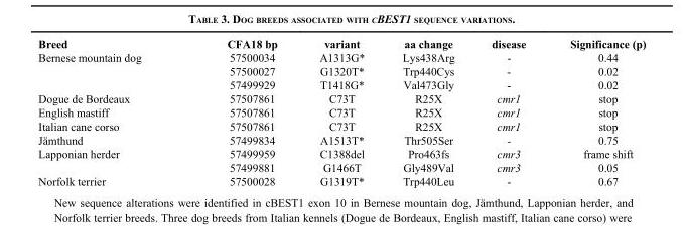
<table><thead><tr><td>Breed</td><td>CFA18 bp</td><td>variant</td><td>aa change</td><td>disease</td><td>Significance (p)</td></tr></thead><tbody><tr><td rowspan="3">Bernese mountain dog</td><td>57500034</td><td>A1313G*</td><td>Lys438Arg</td><td>-</td><td>0.44</td></tr><tr><td>57500027</td><td>G1320T*</td><td>Trp440Cys</td><td>-</td><td>0.02</td></tr><tr><td>57499929</td><td>T1418G*</td><td>Val473Gly</td><td>-</td><td>0.02</td></tr><tr><td>Dogue de Bordeaux</td><td>57507861</td><td>C73T</td><td>R25X</td><td>cmr1</td><td>stop</td></tr><tr><td>English mastiff</td><td>57507861</td><td>C73T</td><td>R25X</td><td>cmr1</td><td>stop</td></tr><tr><td>Italian cane corso</td><td>57507861</td><td>C73T</td><td>R25X</td><td>cmr1</td><td>stop</td></tr><tr><td>Jämthund</td><td>57499834</td><td>A1513T*</td><td>Thr505Ser</td><td>-</td><td>0.75</td></tr><tr><td rowspan="2">Lapponian herder</td><td>57499959</td><td>C1388del</td><td>Pro463fs</td><td>cmr3</td><td>frame shift</td></tr><tr><td>57499881</td><td>G1466T</td><td>Gly489Val</td><td>cmr3</td><td>0.05</td></tr><tr><td>Norfolk terrier</td><td>57500028</td><td>G1319T*</td><td>Trp440Leu</td><td>-</td><td>0.67</td></tr></tbody></table>